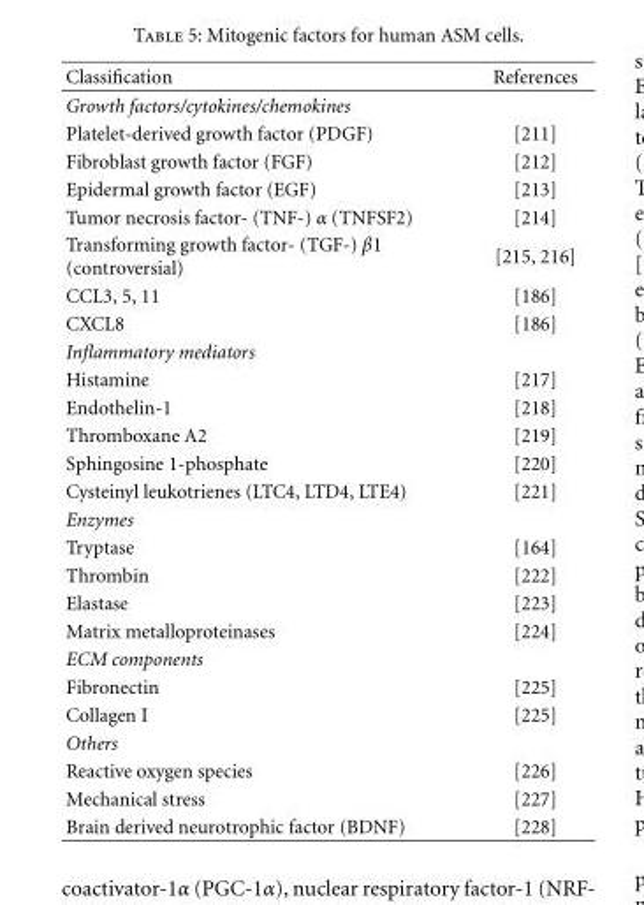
<table><thead><tr><td>Classification</td><td>References</td></tr></thead><tbody><tr><td colspan="2">Growth factors/cytokines/chemokines</td></tr><tr><td>Platelet-derived growth factor (PDGF)</td><td>[211]</td></tr><tr><td>Fibroblast growth factor (FGF)</td><td>[212]</td></tr><tr><td>Epidermal growth factor (EGF)</td><td>[213]</td></tr><tr><td>Tumor necrosis factor- (TNF-) α (TNFSF2)</td><td>[214]</td></tr><tr><td>Transforming growth factor- (TGF-) β1 (controversial)</td><td>[215, 216]</td></tr><tr><td>CCL3, 5, 11</td><td>[186]</td></tr><tr><td>CXCL8</td><td>[186]</td></tr><tr><td colspan="2">Inflammatory mediators</td></tr><tr><td>Histamine</td><td>[217]</td></tr><tr><td>Endothelin-1</td><td>[218]</td></tr><tr><td>Thromboxane A2</td><td>[219]</td></tr><tr><td>Sphingosine 1-phosphate</td><td>[220]</td></tr><tr><td>Cysteinyl leukotrienes (LTC4, LTD4, LTE4)</td><td>[221]</td></tr><tr><td colspan="2">Enzymes</td></tr><tr><td>Tryptase</td><td>[164]</td></tr><tr><td>Thrombin</td><td>[222]</td></tr><tr><td>Elastase</td><td>[223]</td></tr><tr><td>Matrix metalloproteinases</td><td>[224]</td></tr><tr><td colspan="2">ECM components</td></tr><tr><td>Fibronectin</td><td>[225]</td></tr><tr><td>Collagen I</td><td>[225]</td></tr><tr><td colspan="2">Others</td></tr><tr><td>Reactive oxygen species</td><td>[226]</td></tr><tr><td>Mechanical stress</td><td>[227]</td></tr><tr><td>Brain derived neurotrophic factor (BDNF)</td><td>[228]</td></tr></tbody></table>